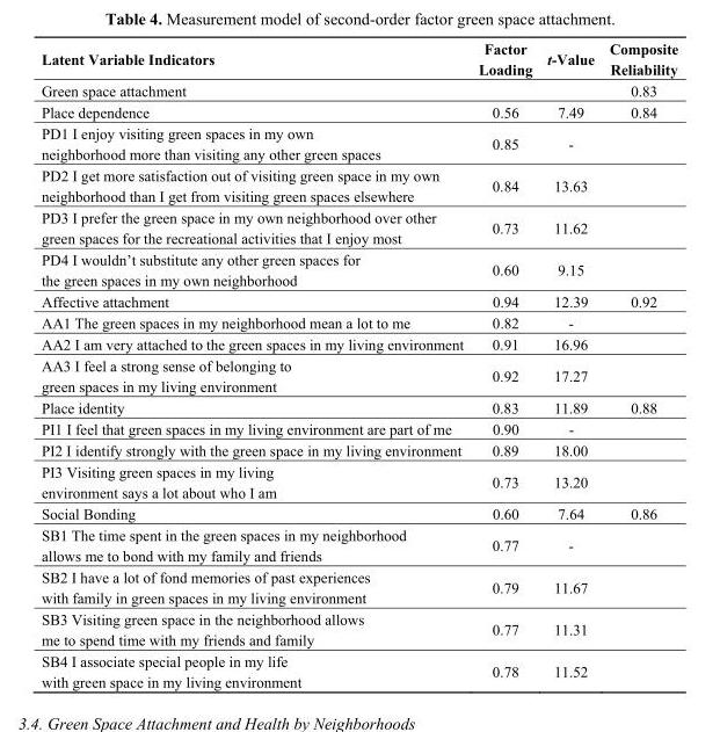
<table><thead><tr><td>Latent Variable Indicators</td><td>Factor Loading</td><td>t-Value</td><td>Composite Reliability</td></tr></thead><tbody><tr><td>Green space attachment</td><td></td><td></td><td>0.83</td></tr><tr><td>Place dependence</td><td>0.56</td><td>7.49</td><td>0.84</td></tr><tr><td>PD1 I enjoy visiting green spaces in my own neighborhood more than visiting any other green spaces</td><td>0.85</td><td>-</td><td></td></tr><tr><td>PD2 I get more satisfaction out of visiting green space in my own neighborhood than I get from visiting green spaces elsewhere</td><td>0.84</td><td>13.63</td><td></td></tr><tr><td>PD3 I prefer the green space in my own neighborhood over other green spaces for the recreational activities that I enjoy most</td><td>0.73</td><td>11.62</td><td></td></tr><tr><td>PD4 I wouldn’t substitute any other green spaces for the green spaces in my own neighborhood</td><td>0.60</td><td>9.15</td><td></td></tr><tr><td>Affective attachment</td><td>0.94</td><td>12.39</td><td>0.92</td></tr><tr><td>AA1 The green spaces in my neighborhood mean a lot to me</td><td>0.82</td><td>-</td><td></td></tr><tr><td>AA2 I am very attached to the green spaces in my living environment</td><td>0.91</td><td>16.96</td><td></td></tr><tr><td>AA3 I feel a strong sense of belonging to green spaces in my living environment</td><td>0.92</td><td>17.27</td><td></td></tr><tr><td>Place identity</td><td>0.83</td><td>11.89</td><td>0.88</td></tr><tr><td>PI1 I feel that green spaces in my living environment are part of me</td><td>0.90</td><td>-</td><td></td></tr><tr><td>PI2 I identify strongly with the green space in my living environment</td><td>0.89</td><td>18.00</td><td></td></tr><tr><td>PI3 Visiting green spaces in my living environment says a lot about who I am</td><td>0.73</td><td>13.20</td><td></td></tr><tr><td>Social Bonding</td><td>0.60</td><td>7.64</td><td>0.86</td></tr><tr><td>SB1 The time spent in the green spaces in my neighborhood allows me to bond with my family and friends</td><td>0.77</td><td>-</td><td></td></tr><tr><td>SB2 I have a lot of fond memories of past experiences with family in green spaces in my living environment</td><td>0.79</td><td>11.67</td><td></td></tr><tr><td>SB3 Visiting green space in the neighborhood allows me to spend time with my friends and family</td><td>0.77</td><td>11.31</td><td></td></tr><tr><td>SB4 I associate special people in my life with green space in my living environment</td><td>0.78</td><td>11.52</td><td></td></tr></tbody></table>